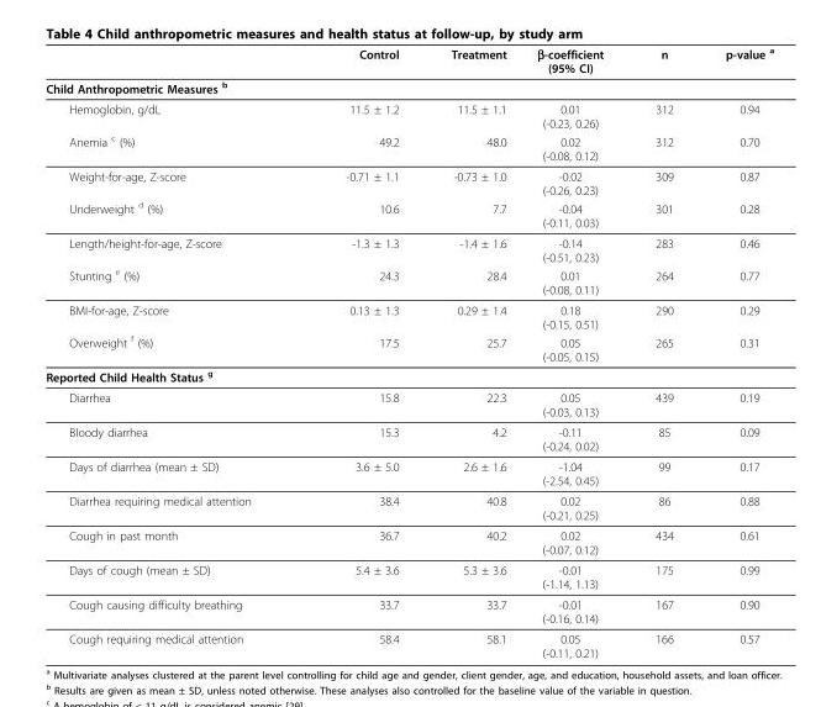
<table><thead><tr><td></td><td>Control</td><td>Treatment</td><td>β-coefficient (95% CI)</td><td>n</td><td>p-value <sup>a</sup></td></tr></thead><tbody><tr><td colspan="6">Child Anthropometric Measures <sup>b</sup></td></tr><tr><td>Hemoglobin, g/dL</td><td>11.5 ± 1.2</td><td>11.5 ± 1.1</td><td>0.01 (-0.23, 0.26)</td><td>312</td><td>0.94</td></tr><tr><td>Anemia <sup>c</sup> (%)</td><td>49.2</td><td>48.0</td><td>0.02 (-0.08, 0.12)</td><td>312</td><td>0.70</td></tr><tr><td>Weight-for-age, Z-score</td><td>-0.71 ± 1.1</td><td>-0.73 ± 1.0</td><td>-0.02 (-0.26, 0.23)</td><td>309</td><td>0.87</td></tr><tr><td>Underweight <sup>d</sup> (%)</td><td>10.6</td><td>7.7</td><td>-0.04 (-0.11, 0.03)</td><td>301</td><td>0.28</td></tr><tr><td>Length/height-for-age, Z-score</td><td>-1.3 ± 1.3</td><td>-1.4 ± 1.6</td><td>-0.14 (-0.51, 0.23)</td><td>283</td><td>0.46</td></tr><tr><td>Stunting <sup>e</sup> (%)</td><td>24.3</td><td>28.4</td><td>0.01 (-0.08, 0.11)</td><td>264</td><td>0.77</td></tr><tr><td>BMI-for-age, Z-score</td><td>0.13 ± 1.3</td><td>0.29 ± 1.4</td><td>0.18 (-0.15, 0.51)</td><td>290</td><td>0.29</td></tr><tr><td>Overweight <sup>f</sup> (%)</td><td>17.5</td><td>25.7</td><td>0.05 (-0.05, 0.15)</td><td>265</td><td>0.31</td></tr><tr><td colspan="6">Reported Child Health Status <sup>g</sup></td></tr><tr><td>Diarrhea</td><td>15.8</td><td>22.3</td><td>0.05 (-0.03, 0.13)</td><td>439</td><td>0.19</td></tr><tr><td>Bloody diarrhea</td><td>15.3</td><td>4.2</td><td>-0.11 (-0.24, 0.02)</td><td>85</td><td>0.09</td></tr><tr><td>Days of diarrhea (mean ± SD)</td><td>3.6 ± 5.0</td><td>2.6 ± 1.6</td><td>-1.04 (-2.54, 0.45)</td><td>99</td><td>0.17</td></tr><tr><td>Diarrhea requiring medical attention</td><td>38.4</td><td>40.8</td><td>0.02 (-0.21, 0.25)</td><td>86</td><td>0.88</td></tr><tr><td>Cough in past month</td><td>36.7</td><td>40.2</td><td>0.02 (-0.07, 0.12)</td><td>434</td><td>0.61</td></tr><tr><td>Days of cough (mean ± SD)</td><td>5.4 ± 3.6</td><td>5.3 ± 3.6</td><td>-0.01 (-1.14, 1.13)</td><td>175</td><td>0.99</td></tr><tr><td>Cough causing difficulty breathing</td><td>33.7</td><td>33.7</td><td>-0.01 (-0.16, 0.14)</td><td>167</td><td>0.90</td></tr><tr><td>Cough requiring medical attention</td><td>58.4</td><td>58.1</td><td>0.05 (-0.11, 0.21)</td><td>166</td><td>0.57</td></tr></tbody></table>